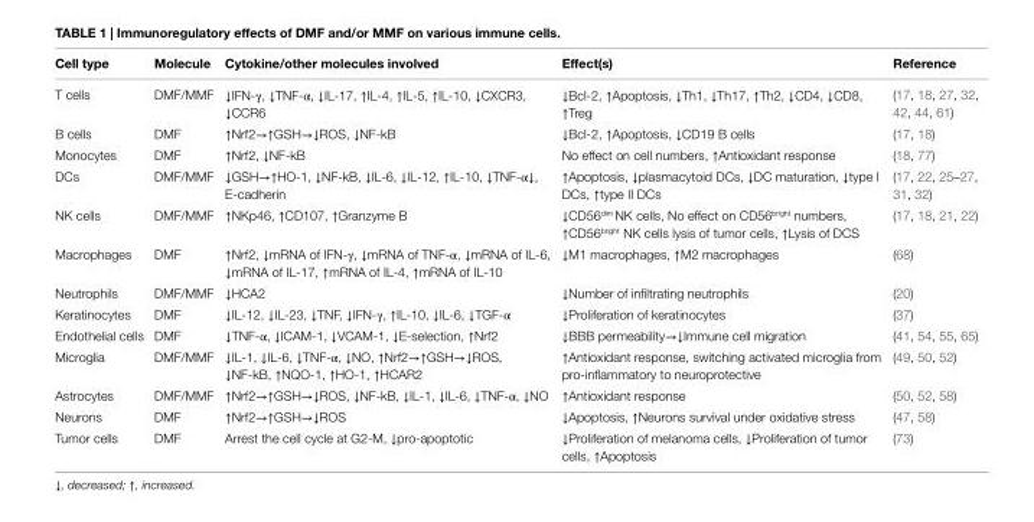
<table><thead><tr><td>Cell type</td><td>Molecule</td><td>Cytokine/other molecules involved</td><td>effect(s)</td><td>Reference</td></tr></thead><tbody><tr><td>T cells</td><td>DMF/MMF</td><td>↓IFN-γ, ↓TNF-α, ↓IL-17, ↑IL-4, ↑IL-5, ↑IL-10, ↓CXCR3, ↓CCR6</td><td>↓Bcl-2, ↑Apoptosis, ↓Th1, ↓Th17, ↑Th2, ↓CD4, ↓CD8, ↑Treg</td><td>(17, 18, 27, 32, 42, 44, 61)</td></tr><tr><td>B cells</td><td>DMF</td><td>↑Nrf2→↑GSH→↓ROS, ↓NF-kB</td><td>↓Bcl-2, ↑Apoptosis, ↓CD19 B cells</td><td>(17, 18)</td></tr><tr><td>Monocytes</td><td>DMF</td><td>↑Nrf2, ↓NF-kB</td><td>No effect on cell numbers, ↑Antioxidant response</td><td>(18, 77)</td></tr><tr><td>DCs</td><td>DMF/MMF</td><td>↓GSH→↑HO-1, ↓NF-kB, ↓IL-6, ↓IL-12, ↑IL-10, ↓TNF-α↓, E-cadherin</td><td>↑Apoptosis, ↓plasmacytoid DCs, ↓DC maturation, ↓type I DCs, ↑type II DCs</td><td>(17, 22, 25–27, 31, 32)</td></tr><tr><td>NK cells</td><td>DMF/MMF</td><td>↑NKp46, ↑CD107, ↑Granzyme B</td><td>↓CD56<sup>dim</sup> NK cells, No effect on CD56<sup>bright</sup> numbers, ↑CD56<sup>bright</sup> NK cells lysis of tumor cells, ↑Lysis of DCS</td><td>(17, 18, 21, 22)</td></tr><tr><td>Macrophages</td><td>DMF</td><td>↑Nrf2, ↓mRNA of IFN-γ, ↓mRNA of TNF-α, ↓mRNA of IL-6, ↓mRNA of IL-17, ↑mRNA of IL-4, ↑mRNA of IL-10</td><td>↓M1 macrophages, ↑M2 macrophages</td><td>(68)</td></tr><tr><td>Neutrophils</td><td>DMF/MMF</td><td>↓HCA2</td><td>↓Number of infiltrating neutrophils</td><td>(20)</td></tr><tr><td>Keratinocytes</td><td>DMF</td><td>↓IL-12, ↓IL-23, ↓TNF, ↓IFN-γ, ↑IL-10, ↓IL-6, ↓TGF-α</td><td>↓Proliferation of keratinocytes</td><td>(37)</td></tr><tr><td>Endothelial cells</td><td>DMF</td><td>↓TNF-α, ↓ICAM-1, ↓VCAM-1, ↓E-selection, ↑Nrf2</td><td>↓BBB permeability→↓Immune cell migration</td><td>(41, 54, 55, 65)</td></tr><tr><td>Microglia</td><td>DMF/MMF</td><td>↓IL-1, ↓IL-6, ↓TNF-α, ↓NO, ↑Nrf2→↑GSH→↓ROS, ↓NF-kB, ↑NQO-1, ↑HO-1, ↑HCAR2</td><td>↑Antioxidant response, switching activated microglia from pro-inflammatory to neuroprotective</td><td>(49, 50, 52)</td></tr><tr><td>Astrocytes</td><td>DMF/MMF</td><td>↑Nrf2→↑GSH→↓ROS, ↓NF-kB, ↓IL-1, ↓IL-6, ↓TNF-α, ↓NO</td><td>↑Antioxidant response</td><td>(50, 52, 58)</td></tr><tr><td>Neurons</td><td>DMF</td><td>↑Nrf2→↑GSH→↓ROS</td><td>↓Apoptosis, ↑Neurons survival under oxidative stress</td><td>(47, 58)</td></tr><tr><td>Tumor cells</td><td>DMF</td><td>Arrest the cell cycle at G2-M, ↓pro-apoptotic</td><td>↓Proliferation of melanoma cells, ↓Proliferation of tumor cells, ↑Apoptosis</td><td>(73)</td></tr></tbody></table>